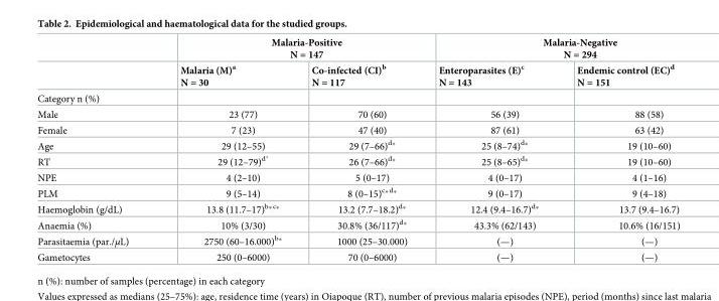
<table><thead><tr><td rowspan="2"></td><td colspan="2">Malaria-Positive N = 147</td><td colspan="2">Malaria-Negative N = 294</td></tr><tr><td>Malaria (M)<sup>a</sup> N = 30</td><td>Co-infected (CI)<sup>b</sup> N = 117</td><td>Enteroparasites (E)<sup>c</sup> N = 143</td><td>Endemic control (EC)<sup>d</sup> N = 151</td></tr></thead><tbody><tr><td colspan="5">Category n (%)</td></tr><tr><td>Male</td><td>23 (77)</td><td>70 (60)</td><td>56 (39)</td><td>88 (58)</td></tr><tr><td>Female</td><td>7 (23)</td><td>47 (40)</td><td>87 (61)</td><td>63 (42)</td></tr><tr><td>Age</td><td>29 (12–55)</td><td>29 (7–66)<sup>d</sup>*</td><td>25 (8–74)<sup>d</sup>*</td><td>19 (10–60)</td></tr><tr><td>RT</td><td>29 (12–79)<sup>d*</sup></td><td>26 (7–66)<sup>d</sup>*</td><td>25 (8–65)<sup>d</sup>*</td><td>19 (10–60)</td></tr><tr><td>NPE</td><td>4 (2–10)</td><td>5 (0–17)</td><td>4 (0–17)</td><td>4 (1–16)</td></tr><tr><td>PLM</td><td>9 (5–14)</td><td>8 (0–15)<sup>c</sup>*<sup>d</sup>*</td><td>9 (0–17)</td><td>9 (4–18)</td></tr><tr><td>Haemoglobin (g/dL)</td><td>13.8 (11.7–17)<sup>b</sup>*<sup>c</sup>*</td><td>13.2 (7.7–18.2)<sup>d</sup>*</td><td>12.4 (9.4–16.7)<sup>d</sup>*</td><td>13.7 (9.4–16.7)</td></tr><tr><td>Anaemia (%)</td><td>10% (3/30)</td><td>30.8% (36/117)<sup>d</sup>*</td><td>43.3% (62/143)</td><td>10.6% (16/151)</td></tr><tr><td>Parasitaemia (par./μL)</td><td>2750 (60–16.000)<sup>b</sup>*</td><td>1000 (25–30.000)</td><td>(—)</td><td>(—)</td></tr><tr><td>Gametocytes</td><td>250 (0–6000)</td><td>70 (0–6000)</td><td>(—)</td><td>(—)</td></tr></tbody></table>